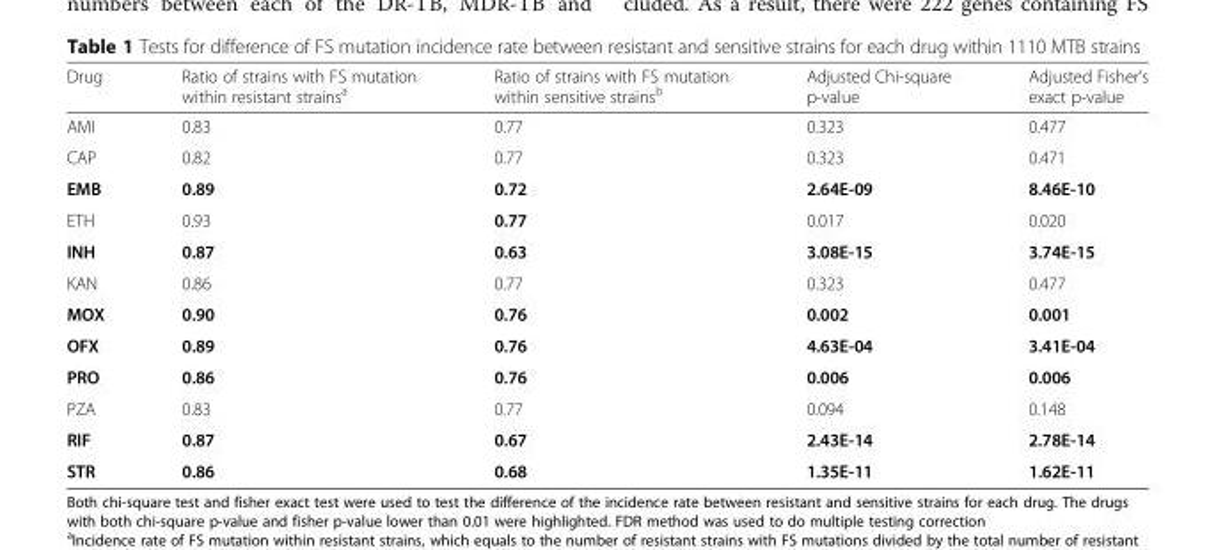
<table><thead><tr><td>Drug</td><td>Ratio of strains with FS mutation within resistant strains<sup>a</sup></td><td>Ratio of strains with FS mutation within sensitive strains<sup>b</sup></td><td>Adjusted Chi-square p-value</td><td>Adjusted Fisher’s exact p-value</td></tr></thead><tbody><tr><td>AMI</td><td>0.83</td><td>0.77</td><td>0.323</td><td>0.477</td></tr><tr><td>CAP</td><td>0.82</td><td>0.77</td><td>0.323</td><td>0.471</td></tr><tr><td>EMB</td><td>0.89</td><td>0.72</td><td>2.64E-09</td><td>8.46E-10</td></tr><tr><td>ETH</td><td>0.93</td><td>0.77</td><td>0.017</td><td>0.020</td></tr><tr><td>INH</td><td>0.87</td><td>0.63</td><td>3.08E-15</td><td>3.74E-15</td></tr><tr><td>KAN</td><td>0.86</td><td>0.77</td><td>0.323</td><td>0.477</td></tr><tr><td>MOX</td><td>0.90</td><td>0.76</td><td>0.002</td><td>0.001</td></tr><tr><td>OFX</td><td>0.89</td><td>0.76</td><td>4.63E-04</td><td>3.41E-04</td></tr><tr><td>PRO</td><td>0.86</td><td>0.76</td><td>0.006</td><td>0.006</td></tr><tr><td>PZA</td><td>0.83</td><td>0.77</td><td>0.094</td><td>0.148</td></tr><tr><td>RIF</td><td>0.87</td><td>0.67</td><td>2.43E-14</td><td>2.78E-14</td></tr><tr><td>STR</td><td>0.86</td><td>0.68</td><td>1.35E-11</td><td>1.62E-11</td></tr></tbody></table>